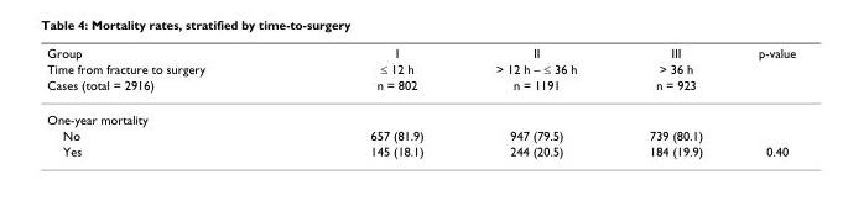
<table><thead><tr><td rowspan="3">Group Time from fracture to surgery Cases (total = 2916)</td><td rowspan="3">I ≤ 12 h n = 802</td><td rowspan="3">II &gt; 12 h – ≤ 36 h n = 1191</td><td rowspan="3">III &gt; 36 h n = 923</td><td rowspan="3">p-value</td></tr><tr></tr><tr></tr></thead><tbody><tr><td colspan="5">One-year mortality</td></tr><tr><td>No</td><td>657 (81.9)</td><td>947 (79.5)</td><td>739 (80.1)</td><td></td></tr><tr><td>Yes</td><td>145 (18.1)</td><td>244 (20.5)</td><td>184 (19.9)</td><td>0.40</td></tr></tbody></table>